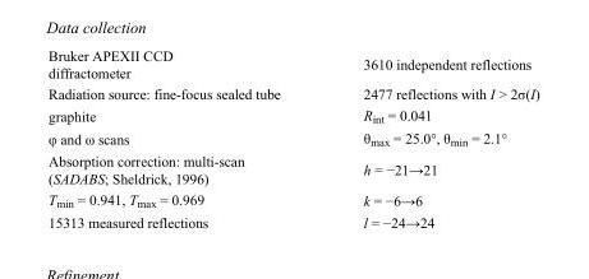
<table><tbody><tr><td>Bruker APEXII CCD diffractometer</td><td>3610 independent reflections</td></tr><tr><td>Radiation source: fine-focus sealed tube</td><td>2477 reflections with I &gt; 2σ(I)</td></tr><tr><td>graphite</td><td>R<sub>int</sub> = 0.041</td></tr><tr><td>φ and ω scans</td><td>θ<sub>max</sub> = 25.0°, θ<sub>min</sub> = 2.1°</td></tr><tr><td>Absorption correction: multi-scan (SADABS; Sheldrick, 1996)</td><td>h = −21→21</td></tr><tr><td>T<sub>min</sub> = 0.941, T<sub>max</sub> = 0.969</td><td>k = −6→6</td></tr><tr><td>15313 measured reflections</td><td>l = −24→24</td></tr></tbody></table>